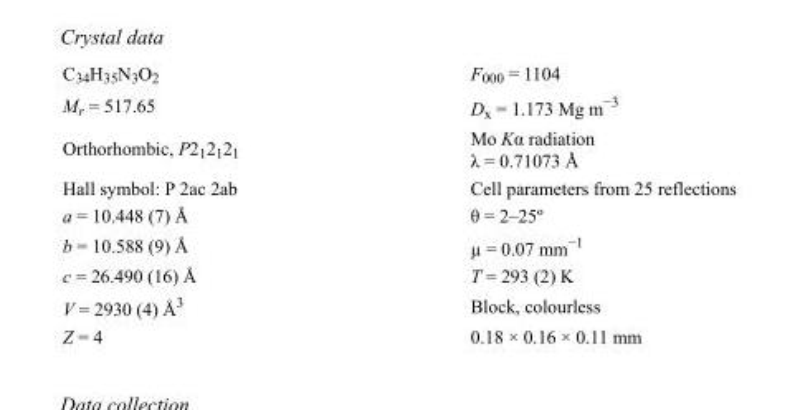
<table><tbody><tr><td>C<sub>34</sub>H<sub>35</sub>N<sub>3</sub>O<sub>2</sub></td><td>F<sub>000</sub> = 1104</td></tr><tr><td>M<sub>r</sub> = 517.65</td><td>D<sub>x</sub> = 1.173 Mg m<sup>−3</sup></td></tr><tr><td>Orthorhombic, P2<sub>1</sub>2<sub>1</sub>2<sub>1</sub></td><td>Mo Kα radiation λ = 0.71073 Å</td></tr><tr><td>Hall symbol: P 2ac 2ab</td><td>Cell parameters from 25 reflections</td></tr><tr><td>a = 10.448 (7) Å</td><td>θ = 2–25º</td></tr><tr><td>b = 10.588 (9) Å</td><td>µ = 0.07 mm<sup>−1</sup></td></tr><tr><td>c = 26.490 (16) Å</td><td>T = 293 (2) K</td></tr><tr><td>V = 2930 (4) Å<sup>3</sup></td><td>Block, colourless</td></tr><tr><td>Z = 4</td><td>0.18 × 0.16 × 0.11 mm</td></tr></tbody></table>